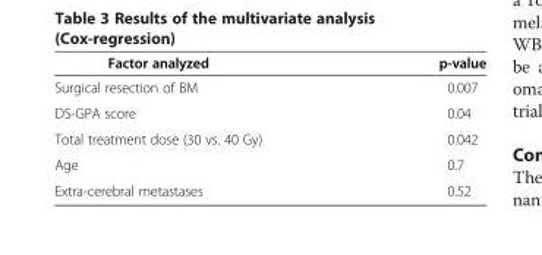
<table><thead><tr><td>Factor analyzed</td><td>p-value</td></tr></thead><tbody><tr><td>Surgical resection of BM</td><td>0.007</td></tr><tr><td>DS-GPA score</td><td>0.04</td></tr><tr><td>Total treatment dose (30 vs. 40 Gy)</td><td>0.042</td></tr><tr><td>Age</td><td>0.7</td></tr><tr><td>Extra-cerebral metastases</td><td>0.52</td></tr></tbody></table>